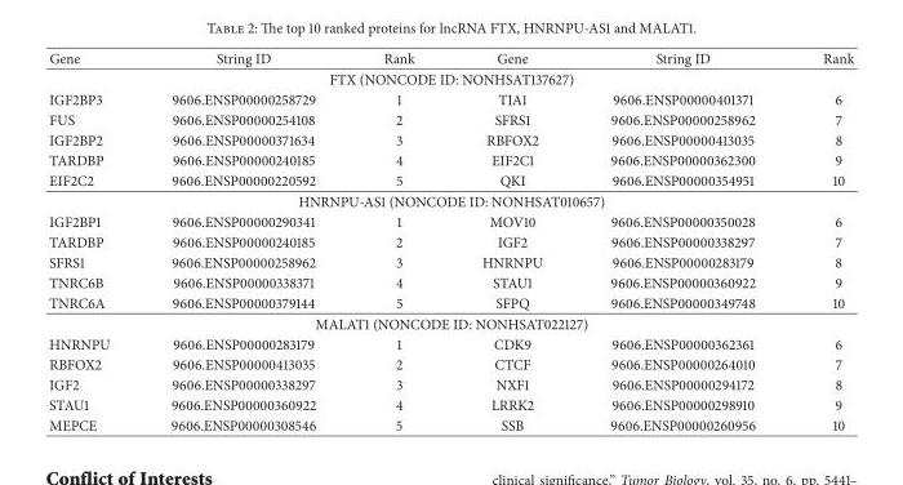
<table><thead><tr><td>Gene</td><td>String ID</td><td>Rank</td><td>Gene</td><td>String ID</td><td>Rank</td></tr></thead><tbody><tr><td colspan="6">FTX (NONCODE ID: NONHSAT137627)</td></tr><tr><td>IGF2BP3</td><td>9606.ENSP00000258729</td><td>1</td><td>TIA1</td><td>9606.ENSP00000401371</td><td>6</td></tr><tr><td>FUS</td><td>9606.ENSP00000254108</td><td>2</td><td>SFRS1</td><td>9606.ENSP00000258962</td><td>7</td></tr><tr><td>IGF2BP2</td><td>9606.ENSP00000371634</td><td>3</td><td>RBFOX2</td><td>9606.ENSP00000413035</td><td>8</td></tr><tr><td>TARDBP</td><td>9606.ENSP00000240185</td><td>4</td><td>EIF2C1</td><td>9606.ENSP00000362300</td><td>9</td></tr><tr><td>EIF2C2</td><td>9606.ENSP00000220592</td><td>5</td><td>QKI</td><td>9606.ENSP00000354951</td><td>10</td></tr><tr><td colspan="6">HNRNPU-AS1 (NONCODE ID: NONHSAT010657)</td></tr><tr><td>IGF2BP1</td><td>9606.ENSP00000290341</td><td>1</td><td>MOV10</td><td>9606.ENSP00000350028</td><td>6</td></tr><tr><td>TARDBP</td><td>9606.ENSP00000240185</td><td>2</td><td>IGF2</td><td>9606.ENSP00000338297</td><td>7</td></tr><tr><td>SFRS1</td><td>9606.ENSP00000258962</td><td>3</td><td>HNRNPU</td><td>9606.ENSP00000283179</td><td>8</td></tr><tr><td>TNRC6B</td><td>9606.ENSP00000338371</td><td>4</td><td>STAU1</td><td>9606.ENSP00000360922</td><td>9</td></tr><tr><td>TNRC6A</td><td>9606.ENSP00000379144</td><td>5</td><td>SFPQ</td><td>9606.ENSP00000349748</td><td>10</td></tr><tr><td colspan="6">MALAT1 (NONCODE ID: NONHSAT022127)</td></tr><tr><td>HNRNPU</td><td>9606.ENSP00000283179</td><td>1</td><td>CDK9</td><td>9606.ENSP00000362361</td><td>6</td></tr><tr><td>RBFOX2</td><td>9606.ENSP00000413035</td><td>2</td><td>CTCF</td><td>9606.ENSP00000264010</td><td>7</td></tr><tr><td>IGF2</td><td>9606.ENSP00000338297</td><td>3</td><td>NXF1</td><td>9606.ENSP00000294172</td><td>8</td></tr><tr><td>STAU1</td><td>9606.ENSP00000360922</td><td>4</td><td>LRRK2</td><td>9606.ENSP00000298910</td><td>9</td></tr><tr><td>MEPCE</td><td>9606.ENSP00000308546</td><td>5</td><td>SSB</td><td>9606.ENSP00000260956</td><td>10</td></tr></tbody></table>